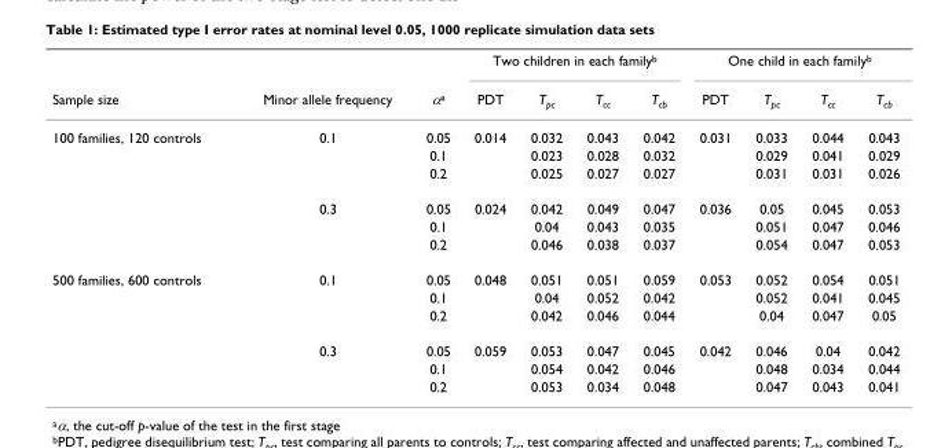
<table><thead><tr><td rowspan="2">Sample size</td><td rowspan="2">Minor allele frequency</td><td rowspan="2">α<sup>a</sup></td><td colspan="4">Two children in each family<sup>b</sup></td><td colspan="4">One child in each family<sup>b</sup></td></tr><tr><td>PDT</td><td>T<sub>pc</sub></td><td>T<sub>cc</sub></td><td>T<sub>cb</sub></td><td>PDT</td><td>T<sub>pc</sub></td><td>T<sub>cc</sub></td><td>T<sub>cb</sub></td></tr></thead><tbody><tr><td rowspan="6">100 families, 120 controls</td><td>0.1</td><td>0.05</td><td>0.014</td><td>0.032</td><td>0.043</td><td>0.042</td><td>0.031</td><td>0.033</td><td>0.044</td><td>0.043</td></tr><tr><td></td><td>0.1</td><td></td><td>0.023</td><td>0.028</td><td>0.032</td><td></td><td>0.029</td><td>0.041</td><td>0.029</td></tr><tr><td></td><td>0.2</td><td></td><td>0.025</td><td>0.027</td><td>0.027</td><td></td><td>0.031</td><td>0.031</td><td>0.026</td></tr><tr><td>0.3</td><td>0.05</td><td>0.024</td><td>0.042</td><td>0.049</td><td>0.047</td><td>0.036</td><td>0.05</td><td>0.045</td><td>0.053</td></tr><tr><td></td><td>0.1</td><td></td><td>0.04</td><td>0.043</td><td>0.035</td><td></td><td>0.051</td><td>0.047</td><td>0.046</td></tr><tr><td></td><td>0.2</td><td></td><td>0.046</td><td>0.038</td><td>0.037</td><td></td><td>0.054</td><td>0.047</td><td>0.053</td></tr><tr><td rowspan="6">500 families, 600 controls</td><td>0.1</td><td>0.05</td><td>0.048</td><td>0.051</td><td>0.051</td><td>0.059</td><td>0.053</td><td>0.052</td><td>0.054</td><td>0.051</td></tr><tr><td></td><td>0.1</td><td></td><td>0.04</td><td>0.052</td><td>0.042</td><td></td><td>0.052</td><td>0.041</td><td>0.045</td></tr><tr><td></td><td>0.2</td><td></td><td>0.042</td><td>0.046</td><td>0.044</td><td></td><td>0.04</td><td>0.047</td><td>0.05</td></tr><tr><td>0.3</td><td>0.05</td><td>0.059</td><td>0.053</td><td>0.047</td><td>0.045</td><td>0.042</td><td>0.046</td><td>0.04</td><td>0.042</td></tr><tr><td></td><td>0.1</td><td></td><td>0.054</td><td>0.042</td><td>0.046</td><td></td><td>0.048</td><td>0.034</td><td>0.044</td></tr><tr><td></td><td>0.2</td><td></td><td>0.053</td><td>0.034</td><td>0.048</td><td></td><td>0.047</td><td>0.043</td><td>0.041</td></tr></tbody></table>